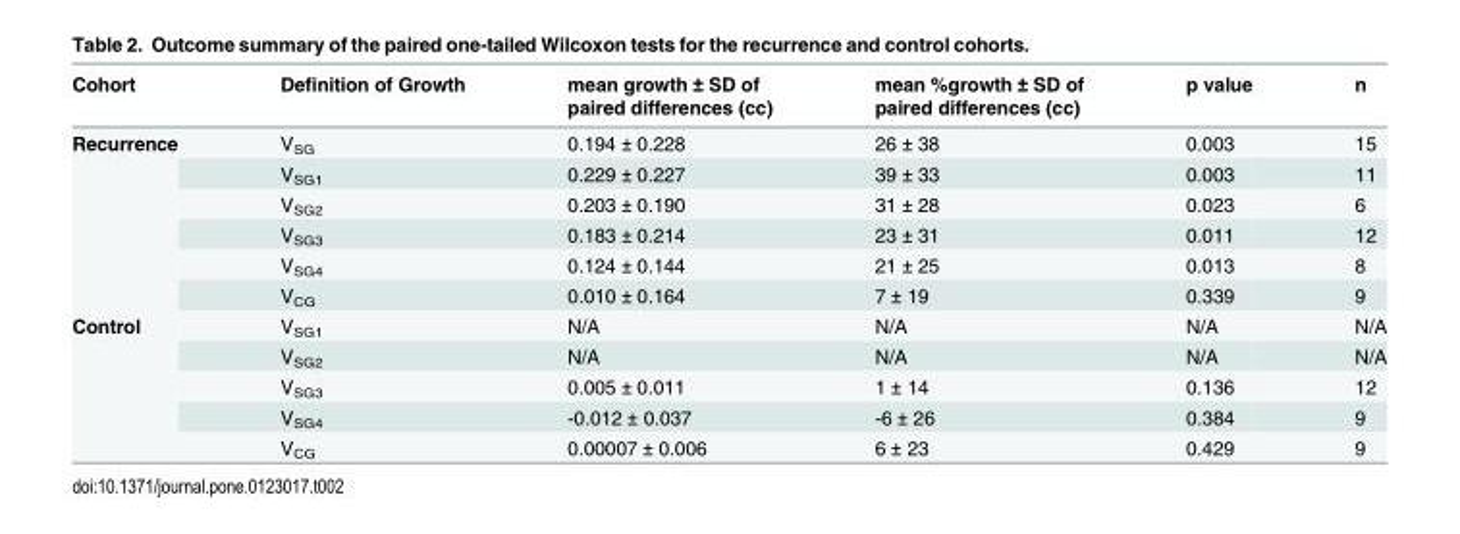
<table><thead><tr><td>Cohort</td><td>Definition of Growth</td><td>mean growth ± SD of paired differences (cc)</td><td>mean %growth ± SD of paired differences (cc)</td><td>p value</td><td>n</td></tr></thead><tbody><tr><td rowspan="6">Recurrence</td><td>V<sub>SG</sub></td><td>0.194 ± 0.228</td><td>26 ± 38</td><td>0.003</td><td>15</td></tr><tr><td>V<sub>SG1</sub></td><td>0.229 ± 0.227</td><td>39 ± 33</td><td>0.003</td><td>11</td></tr><tr><td>V<sub>SG2</sub></td><td>0.203 ± 0.190</td><td>31 ± 28</td><td>0.023</td><td>6</td></tr><tr><td>V<sub>SG3</sub></td><td>0.183 ± 0.214</td><td>23 ± 31</td><td>0.011</td><td>12</td></tr><tr><td>V<sub>SG4</sub></td><td>0.124 ± 0.144</td><td>21 ± 25</td><td>0.013</td><td>8</td></tr><tr><td>V<sub>CG</sub></td><td>0.010 ± 0.164</td><td>7 ± 19</td><td>0.339</td><td>9</td></tr><tr><td rowspan="5">Control</td><td>V<sub>SG1</sub></td><td>N/A</td><td>N/A</td><td>N/A</td><td>N/A</td></tr><tr><td>V<sub>SG2</sub></td><td>N/A</td><td>N/A</td><td>N/A</td><td>N/A</td></tr><tr><td>V<sub>SG3</sub></td><td>0.005 ± 0.011</td><td>1 ± 14</td><td>0.136</td><td>12</td></tr><tr><td>V<sub>SG4</sub></td><td>-0.012 ± 0.037</td><td>-6 ± 26</td><td>0.384</td><td>9</td></tr><tr><td>V<sub>CG</sub></td><td>0.00007 ± 0.006</td><td>6 ± 23</td><td>0.429</td><td>9</td></tr></tbody></table>